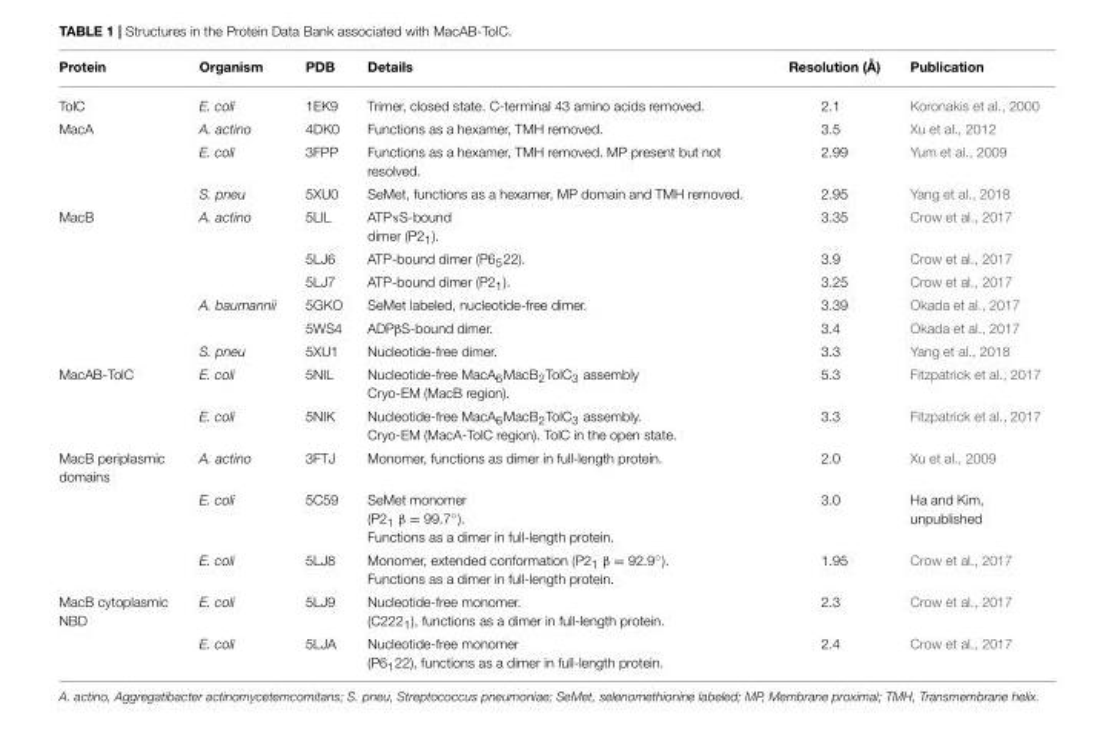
<table><thead><tr><td>Protein</td><td>Organism</td><td>PDB</td><td>Details</td><td>Resolution (Å)</td><td>Publication</td></tr></thead><tbody><tr><td>TolC</td><td>E. coli</td><td>1EK9</td><td>Trimer, closed state. C-terminal 43 amino acids removed.</td><td>2.1</td><td>Koronakis et al., 2000</td></tr><tr><td rowspan="3">MacA</td><td>A. actino</td><td>4DK0</td><td>Functions as a hexamer, TMH removed.</td><td>3.5</td><td>Xu et al., 2012</td></tr><tr><td>E. coli</td><td>3FPP</td><td>Functions as a hexamer, TMH removed. MP present but not resolved.</td><td>2.99</td><td>Yum et al., 2009</td></tr><tr><td>S. pneu</td><td>5XU0</td><td>SeMet, functions as a hexamer, MP domain and TMH removed.</td><td>2.95</td><td>Yang et al., 2018</td></tr><tr><td rowspan="6">MacB</td><td>A. actino</td><td>5LIL</td><td>ATPÈS-bound dimer (P21).</td><td>3.35</td><td>Crow et al., 2017</td></tr><tr><td></td><td>5LJ6</td><td>ATP-bound dimer (P6<sub>5</sub>22).</td><td>3.9</td><td>Crow et al., 2017</td></tr><tr><td></td><td>5LJ7</td><td>ATP-bound dimer (P2<sub>1</sub>).</td><td>3.25</td><td>Crow et al., 2017</td></tr><tr><td>A. baumannii</td><td>5GKO</td><td>SeMet labeled, nucleotide-free dimer.</td><td>3.39</td><td>Okada et al., 2017</td></tr><tr><td></td><td>5WS4</td><td>ADPβS-bound dimer.</td><td>3.4</td><td>Okada et al., 2017</td></tr><tr><td>S. pneu</td><td>5XU1</td><td>Nucleotide-free dimer.</td><td>3.3</td><td>Yang et al., 2018</td></tr><tr><td rowspan="2">MacAB-TolC</td><td>E. coli</td><td>5NIL</td><td>Nucleotide-free MacA<sub>6</sub>MacB<sub>2</sub>TolC<sub>3</sub> assembly Cryo-EM (MacB region).</td><td>5.3</td><td>Fitzpatrick et al., 2017</td></tr><tr><td>E. coli</td><td>5NIK</td><td>Nucleotide-free MacA<sub>6</sub>MacB<sub>2</sub>TolC<sub>3</sub> assembly. Cryo-EM (MacA-TolC region). TolC in the open state.</td><td>3.3</td><td>Fitzpatrick et al., 2017</td></tr><tr><td rowspan="3">MacB periplasmic domains</td><td>A. actino</td><td>3FTJ</td><td>Monomer, functions as dimer in full-length protein.</td><td>2.0</td><td>Xu et al., 2009</td></tr><tr><td>E. coli</td><td>5C59</td><td>SeMet monomer (P21 β = 99.7◦). Functions as a dimer in full-length protein.</td><td>3.0</td><td>Ha and Kim, unpublished</td></tr><tr><td>E. coli</td><td>5LJ8</td><td>Monomer, extended conformation (P21 β = 92.9◦). Functions as a dimer in full-length protein.</td><td>1.95</td><td>Crow et al., 2017</td></tr><tr><td rowspan="2">MacB cytoplasmic NBD</td><td>E. coli</td><td>5LJ9</td><td>Nucleotide-free monomer. (C222<sub>1</sub>), functions as a dimer in full-length protein.</td><td>2.3</td><td>Crow et al., 2017</td></tr><tr><td>E. coli</td><td>5LJA</td><td>Nucleotide-free monomer (P6<sub>1</sub>22), functions as a dimer in full-length protein.</td><td>2.4</td><td>Crow et al., 2017</td></tr></tbody></table>